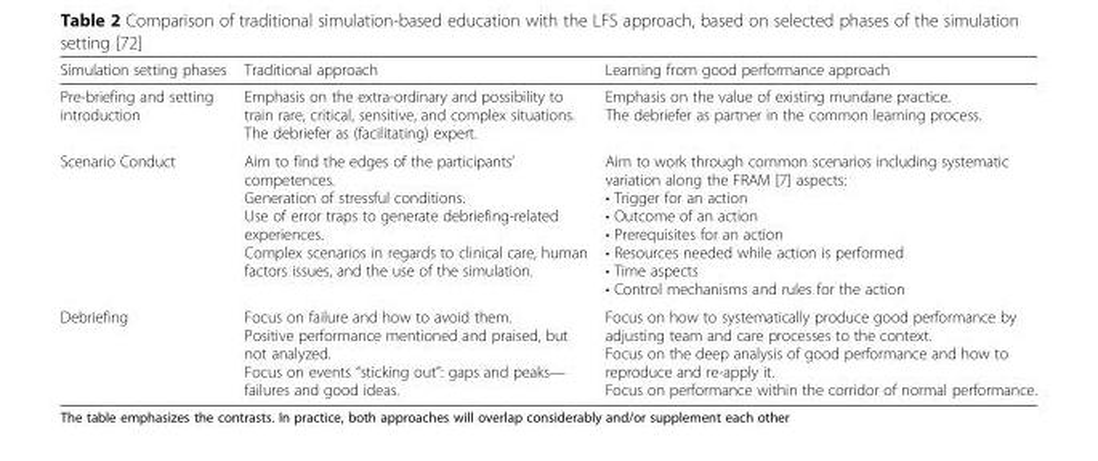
<table><thead><tr><td>Simulation setting phases</td><td>Traditional approach</td><td>Learning from good performance approach</td></tr></thead><tbody><tr><td>Pre-briefing and setting introduction</td><td>Emphasis on the extra-ordinary and possibility to train rare, critical, sensitive, and complex situations. The debriefer as (facilitating) expert.</td><td>Emphasis on the value of existing mundane practice. The debriefer as partner in the common learning process.</td></tr><tr><td>Scenario Conduct</td><td>Aim to find the edges of the participants’ competences. Generation of stressful conditions. Use of error traps to generate debriefing-related experiences. Complex scenarios in regards to clinical care, human factors issues, and the use of the simulation.</td><td>Aim to work through common scenarios including systematic variation along the FRAM [7] aspects: • Trigger for an action • Outcome of an action • Prerequisites for an action • Resources needed while action is performed • Time aspects • Control mechanisms and rules for the action</td></tr><tr><td>Debriefing</td><td>Focus on failure and how to avoid them. Positive performance mentioned and praised, but not analyzed. Focus on events “sticking out”: gaps and peaks— failures and good ideas.</td><td>Focus on how to systematically produce good performance by adjusting team and care processes to the context. Focus on the deep analysis of good performance and how to reproduce and re-apply it. Focus on performance within the corridor of normal performance.</td></tr></tbody></table>